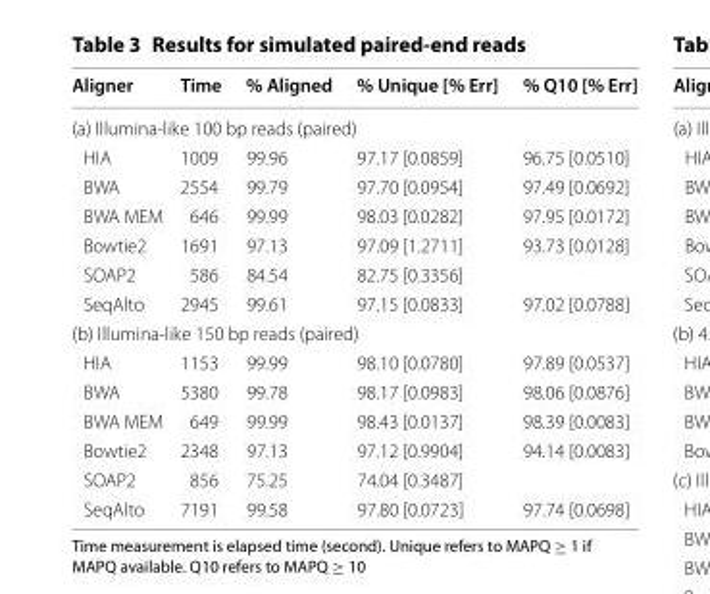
<table><thead><tr><td>Aligner</td><td>Time</td><td>% Aligned</td><td>% Unique [% Err]</td><td>% Q10 [% Err]</td></tr></thead><tbody><tr><td colspan="5">(a) Illumina-like 100 bp reads (paired)</td></tr><tr><td>HIA</td><td>1009</td><td>99.96</td><td>97.17 [0.0859]</td><td>96.75 [0.0510]</td></tr><tr><td>BWA</td><td>2554</td><td>99.79</td><td>97.70 [0.0954]</td><td>97.49 [0.0692]</td></tr><tr><td>BWA MEM</td><td>646</td><td>99.99</td><td>98.03 [0.0282]</td><td>97.95 [0.0172]</td></tr><tr><td>Bowtie2</td><td>1691</td><td>97.13</td><td>97.09 [1.2711]</td><td>93.73 [0.0128]</td></tr><tr><td>SOAP2</td><td>586</td><td>84.54</td><td>82.75 [0.3356]</td><td></td></tr><tr><td>SeqAlto</td><td>2945</td><td>99.61</td><td>97.15 [0.0833]</td><td>97.02 [0.0788]</td></tr><tr><td colspan="5">(b) Illumina-like 150 bp reads (paired)</td></tr><tr><td>HIA</td><td>1153</td><td>99.99</td><td>98.10 [0.0780]</td><td>97.89 [0.0537]</td></tr><tr><td>BWA</td><td>5380</td><td>99.78</td><td>98.17 [0.0983]</td><td>98.06 [0.0876]</td></tr><tr><td>BWA MEM</td><td>649</td><td>99.99</td><td>98.43 [0.0137]</td><td>98.39 [0.0083]</td></tr><tr><td>Bowtie2</td><td>2348</td><td>97.13</td><td>97.12 [0.9904]</td><td>94.14 [0.0083]</td></tr><tr><td>SOAP2</td><td>856</td><td>75.25</td><td>74.04 [0.3487]</td><td></td></tr><tr><td>SeqAlto</td><td>7191</td><td>99.58</td><td>97.80 [0.0723]</td><td>97.74 [0.0698]</td></tr></tbody></table>